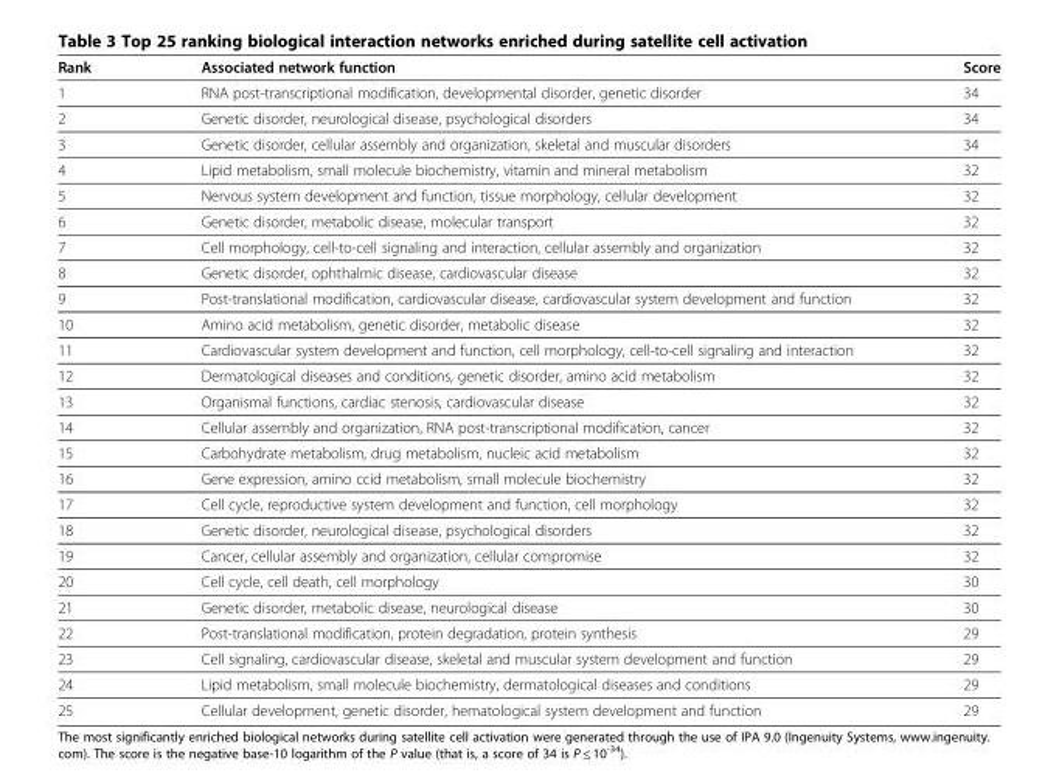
<table><thead><tr><td>Rank</td><td>Associated network function</td><td>Score</td></tr></thead><tbody><tr><td>1</td><td>RNA post-transcriptional modification, developmental disorder, genetic disorder</td><td>34</td></tr><tr><td>2</td><td>Genetic disorder, neurological disease, psychological disorders</td><td>34</td></tr><tr><td>3</td><td>Genetic disorder, cellular assembly and organization, skeletal and muscular disorders</td><td>34</td></tr><tr><td>4</td><td>Lipid metabolism, small molecule biochemistry, vitamin and mineral metabolism</td><td>32</td></tr><tr><td>5</td><td>Nervous system development and function, tissue morphology, cellular development</td><td>32</td></tr><tr><td>6</td><td>Genetic disorder, metabolic disease, molecular transport</td><td>32</td></tr><tr><td>7</td><td>Cell morphology, cell-to-cell signaling and interaction, cellular assembly and organization</td><td>32</td></tr><tr><td>8</td><td>Genetic disorder, ophthalmic disease, cardiovascular disease</td><td>32</td></tr><tr><td>9</td><td>Post-translational modification, cardiovascular disease, cardiovascular system development and function</td><td>32</td></tr><tr><td>10</td><td>Amino acid metabolism, genetic disorder, metabolic disease</td><td>32</td></tr><tr><td>11</td><td>Cardiovascular system development and function, cell morphology, cell-to-cell signaling and interaction</td><td>32</td></tr><tr><td>12</td><td>Dermatological diseases and conditions, genetic disorder, amino acid metabolism</td><td>32</td></tr><tr><td>13</td><td>Organismal functions, cardiac stenosis, cardiovascular disease</td><td>32</td></tr><tr><td>14</td><td>Cellular assembly and organization, RNA post-transcriptional modification, cancer</td><td>32</td></tr><tr><td>15</td><td>Carbohydrate metabolism, drug metabolism, nucleic acid metabolism</td><td>32</td></tr><tr><td>16</td><td>Gene expression, amino ccid metabolism, small molecule biochemistry</td><td>32</td></tr><tr><td>17</td><td>Cell cycle, reproductive system development and function, cell morphology</td><td>32</td></tr><tr><td>18</td><td>Genetic disorder, neurological disease, psychological disorders</td><td>32</td></tr><tr><td>19</td><td>Cancer, cellular assembly and organization, cellular compromise</td><td>32</td></tr><tr><td>20</td><td>Cell cycle, cell death, cell morphology</td><td>30</td></tr><tr><td>21</td><td>Genetic disorder, metabolic disease, neurological disease</td><td>30</td></tr><tr><td>22</td><td>Post-translational modification, protein degradation, protein synthesis</td><td>29</td></tr><tr><td>23</td><td>Cell signaling, cardiovascular disease, skeletal and muscular system development and function</td><td>29</td></tr><tr><td>24</td><td>Lipid metabolism, small molecule biochemistry, dermatological diseases and conditions</td><td>29</td></tr><tr><td>25</td><td>Cellular development, genetic disorder, hematological system development and function</td><td>29</td></tr></tbody></table>